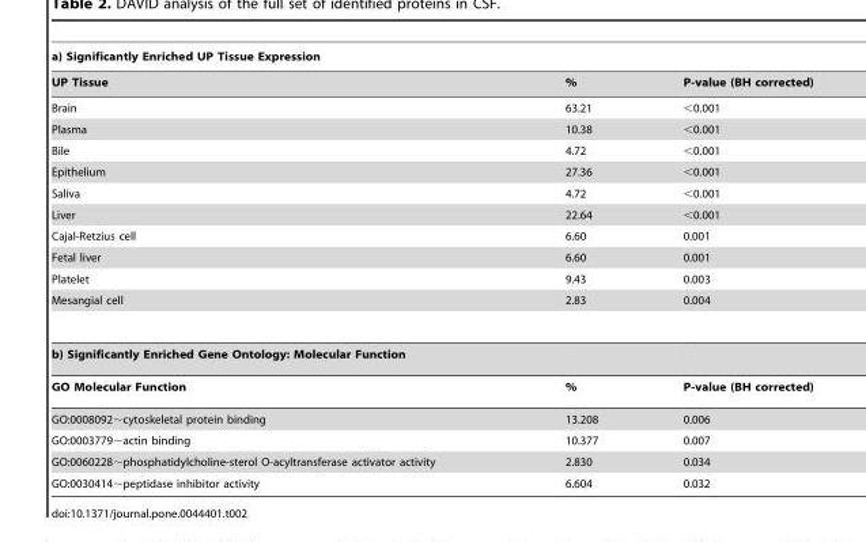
<table><thead><tr><td colspan="3">a) Significantly Enriched UP Tissue Expression</td></tr><tr><td>UP Tissue</td><td>%</td><td>P-value (BH corrected)</td></tr></thead><tbody><tr><td>Brain</td><td>63.21</td><td>&lt;0.001</td></tr><tr><td>Plasma</td><td>10.38</td><td>&lt;0.001</td></tr><tr><td>Bile</td><td>4.72</td><td>&lt;0.001</td></tr><tr><td>Epithelium</td><td>27.36</td><td>&lt;0.001</td></tr><tr><td>Saliva</td><td>4.72</td><td>&lt;0.001</td></tr><tr><td>Liver</td><td>22.64</td><td>&lt;0.001</td></tr><tr><td>Cajal-Retzius cell</td><td>6.60</td><td>0.001</td></tr><tr><td>Fetal liver</td><td>6.60</td><td>0.001</td></tr><tr><td>Platelet</td><td>9.43</td><td>0.003</td></tr><tr><td>Mesangial cell</td><td>2.83</td><td>0.004</td></tr><tr><td colspan="3">b) Significantly Enriched Gene Ontology: Molecular Function</td></tr><tr><td>GO Molecular Function</td><td>%</td><td>P-value (BH corrected)</td></tr><tr><td>GO:0008092∼cytoskeletal protein binding</td><td>13.208</td><td>0.006</td></tr><tr><td>GO:0003779∼actin binding</td><td>10.377</td><td>0.007</td></tr><tr><td>GO:0060228∼phosphatidylcholine-sterol O-acyltransferase activator activity</td><td>2.830</td><td>0.034</td></tr><tr><td>GO:0030414∼peptidase inhibitor activity</td><td>6.604</td><td>0.032</td></tr></tbody></table>